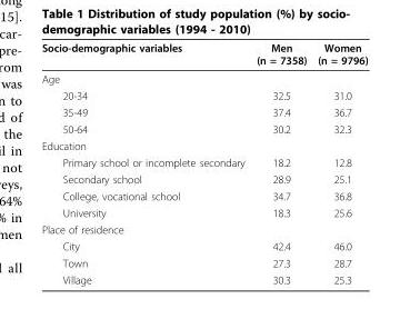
<table><thead><tr><td>Socio-demographic variables</td><td>Men (n = 7358)</td><td>Women (n = 9796)</td></tr></thead><tbody><tr><td colspan="3">Age</td></tr><tr><td>20-34</td><td>32.5</td><td>31.0</td></tr><tr><td>35-49</td><td>37.4</td><td>36.7</td></tr><tr><td>50-64</td><td>30.2</td><td>32.3</td></tr><tr><td colspan="3">Education</td></tr><tr><td>Primary school or incomplete secondary</td><td>18.2</td><td>12.8</td></tr><tr><td>Secondary school</td><td>28.9</td><td>25.1</td></tr><tr><td>College, vocational school</td><td>34.7</td><td>36.8</td></tr><tr><td>University</td><td>18.3</td><td>25.6</td></tr><tr><td colspan="3">Place of residence</td></tr><tr><td>City</td><td>42.4</td><td>46.0</td></tr><tr><td>Town</td><td>27.3</td><td>28.7</td></tr><tr><td>Village</td><td>30.3</td><td>25.3</td></tr></tbody></table>